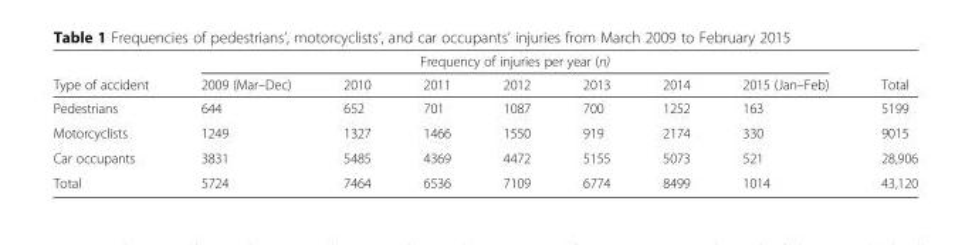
<table><thead><tr><td rowspan="2">Type of accident</td><td colspan="7">Frequency of injuries per year (n)</td><td rowspan="2">Total</td></tr><tr><td>2009 (Mar–Dec)</td><td>2010</td><td>2011</td><td>2012</td><td>2013</td><td>2014</td><td>2015 (Jan–Feb)</td></tr></thead><tbody><tr><td>Pedestrians</td><td>644</td><td>652</td><td>701</td><td>1087</td><td>700</td><td>1252</td><td>163</td><td>5199</td></tr><tr><td>Motorcyclists</td><td>1249</td><td>1327</td><td>1466</td><td>1550</td><td>919</td><td>2174</td><td>330</td><td>9015</td></tr><tr><td>Car occupants</td><td>3831</td><td>5485</td><td>4369</td><td>4472</td><td>5155</td><td>5073</td><td>521</td><td>28,906</td></tr><tr><td>Total</td><td>5724</td><td>7464</td><td>6536</td><td>7109</td><td>6774</td><td>8499</td><td>1014</td><td>43,120</td></tr></tbody></table>